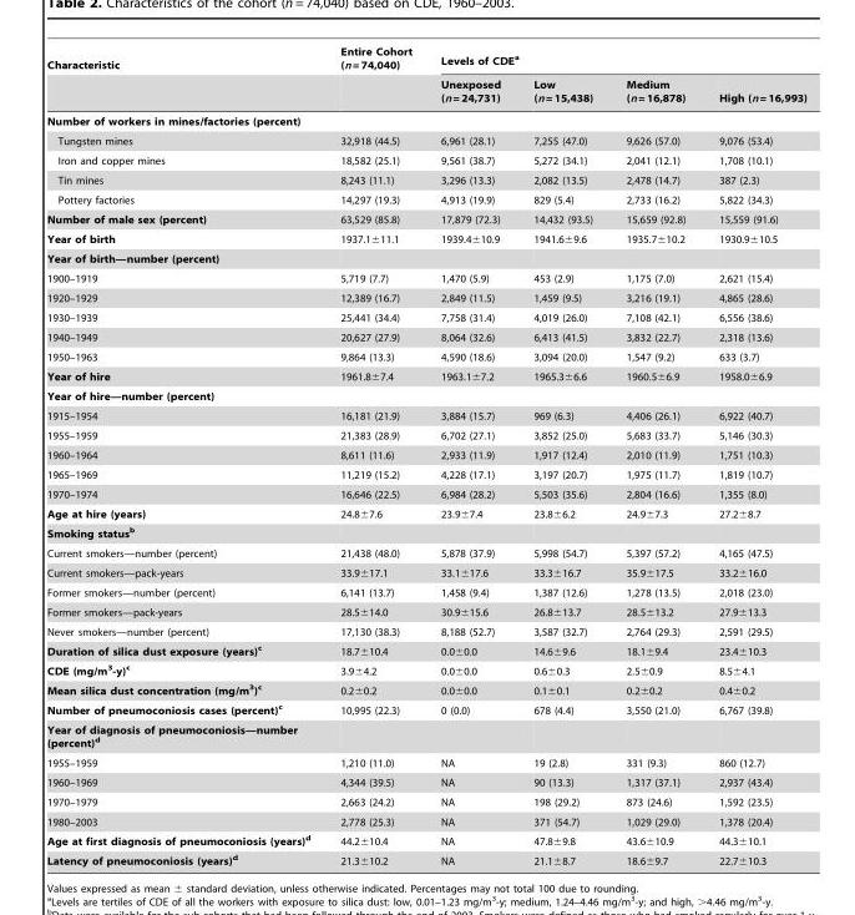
<table><thead><tr><td rowspan="2">Characteristic</td><td rowspan="2">Entire Cohort (n = 74,040)</td><td colspan="4">Levels of CDE<sup>a</sup></td></tr><tr><td>Unexposed (n = 24,731)</td><td>Low (n = 15,438)</td><td>Medium (n = 16,878)</td><td>High (n = 16,993)</td></tr></thead><tbody><tr><td colspan="6">Number of workers in mines/factories (percent)</td></tr><tr><td>Tungsten mines</td><td>32,918 (44.5)</td><td>6,961 (28.1)</td><td>7,255 (47.0)</td><td>9,626 (57.0)</td><td>9,076 (53.4)</td></tr><tr><td>Iron and copper mines</td><td>18,582 (25.1)</td><td>9,561 (38.7)</td><td>5,272 (34.1)</td><td>2,041 (12.1)</td><td>1,708 (10.1)</td></tr><tr><td>Tin mines</td><td>8,243 (11.1)</td><td>3,296 (13.3)</td><td>2,082 (13.5)</td><td>2,478 (14.7)</td><td>387 (2.3)</td></tr><tr><td>Pottery factories</td><td>14,297 (19.3)</td><td>4,913 (19.9)</td><td>829 (5.4)</td><td>2,733 (16.2)</td><td>5,822 (34.3)</td></tr><tr><td>Number of male sex (percent)</td><td>63,529 (85.8)</td><td>17,879 (72.3)</td><td>14,432 (93.5)</td><td>15,659 (92.8)</td><td>15,559 (91.6)</td></tr><tr><td>Year of birth</td><td>1937.1±11.1</td><td>1939.4±10.9</td><td>1941.6±9.6</td><td>1935.7±10.2</td><td>1930.9±10.5</td></tr><tr><td colspan="6">Year of birth—number (percent)</td></tr><tr><td>1900–1919</td><td>5,719 (7.7)</td><td>1,470 (5.9)</td><td>453 (2.9)</td><td>1,175 (7.0)</td><td>2,621 (15.4)</td></tr><tr><td>1920–1929</td><td>12,389 (16.7)</td><td>2,849 (11.5)</td><td>1,459 (9.5)</td><td>3,216 (19.1)</td><td>4,865 (28.6)</td></tr><tr><td>1930–1939</td><td>25,441 (34.4)</td><td>7,758 (31.4)</td><td>4,019 (26.0)</td><td>7,108 (42.1)</td><td>6,556 (38.6)</td></tr><tr><td>1940–1949</td><td>20,627 (27.9)</td><td>8,064 (32.6)</td><td>6,413 (41.5)</td><td>3,832 (22.7)</td><td>2,318 (13.6)</td></tr><tr><td>1950–1963</td><td>9,864 (13.3)</td><td>4,590 (18.6)</td><td>3,094 (20.0)</td><td>1,547 (9.2)</td><td>633 (3.7)</td></tr><tr><td>Year of hire</td><td>1961.8±7.4</td><td>1963.1±7.2</td><td>1965.3±6.6</td><td>1960.5±6.9</td><td>1958.0±6.9</td></tr><tr><td colspan="6">Year of hire—number (percent)</td></tr><tr><td>1915–1954</td><td>16,181 (21.9)</td><td>3,884 (15.7)</td><td>969 (6.3)</td><td>4,406 (26.1)</td><td>6,922 (40.7)</td></tr><tr><td>1955–1959</td><td>21,383 (28.9)</td><td>6,702 (27.1)</td><td>3,852 (25.0)</td><td>5,683 (33.7)</td><td>5,146 (30.3)</td></tr><tr><td>1960–1964</td><td>8,611 (11.6)</td><td>2,933 (11.9)</td><td>1,917 (12.4)</td><td>2,010 (11.9)</td><td>1,751 (10.3)</td></tr><tr><td>1965–1969</td><td>11,219 (15.2)</td><td>4,228 (17.1)</td><td>3,197 (20.7)</td><td>1,975 (11.7)</td><td>1,819 (10.7)</td></tr><tr><td>1970–1974</td><td>16,646 (22.5)</td><td>6,984 (28.2)</td><td>5,503 (35.6)</td><td>2,804 (16.6)</td><td>1,355 (8.0)</td></tr><tr><td>Age at hire (years)</td><td>24.8±7.6</td><td>23.9±7.4</td><td>23.8±6.2</td><td>24.9±7.3</td><td>27.2±8.7</td></tr><tr><td colspan="6">Smoking statusb</td></tr><tr><td>Current smokers—number (percent)</td><td>21,438 (48.0)</td><td>5,878 (37.9)</td><td>5,998 (54.7)</td><td>5,397 (57.2)</td><td>4,165 (47.5)</td></tr><tr><td>Current smokers—pack-years</td><td>33.9±17.1</td><td>33.1±17.6</td><td>33.3±16.7</td><td>35.9±17.5</td><td>33.2±16.0</td></tr><tr><td>Former smokers—number (percent)</td><td>6,141 (13.7)</td><td>1,458 (9.4)</td><td>1,387 (12.6)</td><td>1,278 (13.5)</td><td>2,018 (23.0)</td></tr><tr><td>Former smokers—pack-years</td><td>28.5±14.0</td><td>30.9±15.6</td><td>26.8±13.7</td><td>28.5±13.2</td><td>27.9±13.3</td></tr><tr><td>Never smokers—number (percent)</td><td>17,130 (38.3)</td><td>8,188 (52.7)</td><td>3,587 (32.7)</td><td>2,764 (29.3)</td><td>2,591 (29.5)</td></tr><tr><td>Duration of silica dust exposure (years)c</td><td>18.7±10.4</td><td>0.0±0.0</td><td>14.6±9.6</td><td>18.1±9.4</td><td>23.4±10.3</td></tr><tr><td>CDE (mg/m<sup>3</sup>-y)c</td><td>3.9±4.2</td><td>0.0±0.0</td><td>0.6±0.3</td><td>2.5±0.9</td><td>8.5±4.1</td></tr><tr><td>Mean silica dust concentration (mg/m<sup>3</sup>)c</td><td>0.2±0.2</td><td>0.0±0.0</td><td>0.1±0.1</td><td>0.2±0.2</td><td>0.4±0.2</td></tr><tr><td>Number of pneumoconiosis cases (percent)c</td><td>10,995 (22.3)</td><td>0 (0.0)</td><td>678 (4.4)</td><td>3,550 (21.0)</td><td>6,767 (39.8)</td></tr><tr><td colspan="6">Year of diagnosis of pneumoconiosis—number (percent)d</td></tr><tr><td>1955–1959</td><td>1,210 (11.0)</td><td>NA</td><td>19 (2.8)</td><td>331 (9.3)</td><td>860 (12.7)</td></tr><tr><td>1960–1969</td><td>4,344 (39.5)</td><td>NA</td><td>90 (13.3)</td><td>1,317 (37.1)</td><td>2,937 (43.4)</td></tr><tr><td>1970–1979</td><td>2,663 (24.2)</td><td>NA</td><td>198 (29.2)</td><td>873 (24.6)</td><td>1,592 (23.5)</td></tr><tr><td>1980–2003</td><td>2,778 (25.3)</td><td>NA</td><td>371 (54.7)</td><td>1,029 (29.0)</td><td>1,378 (20.4)</td></tr><tr><td>Age at first diagnosis of pneumoconiosis (years)d</td><td>44.2±10.4</td><td>NA</td><td>47.8±9.8</td><td>43.6±10.9</td><td>44.3±10.1</td></tr><tr><td>Latency of pneumoconiosis (years)d</td><td>21.3±10.2</td><td>NA</td><td>21.1±8.7</td><td>18.6±9.7</td><td>22.7±10.3</td></tr></tbody></table>